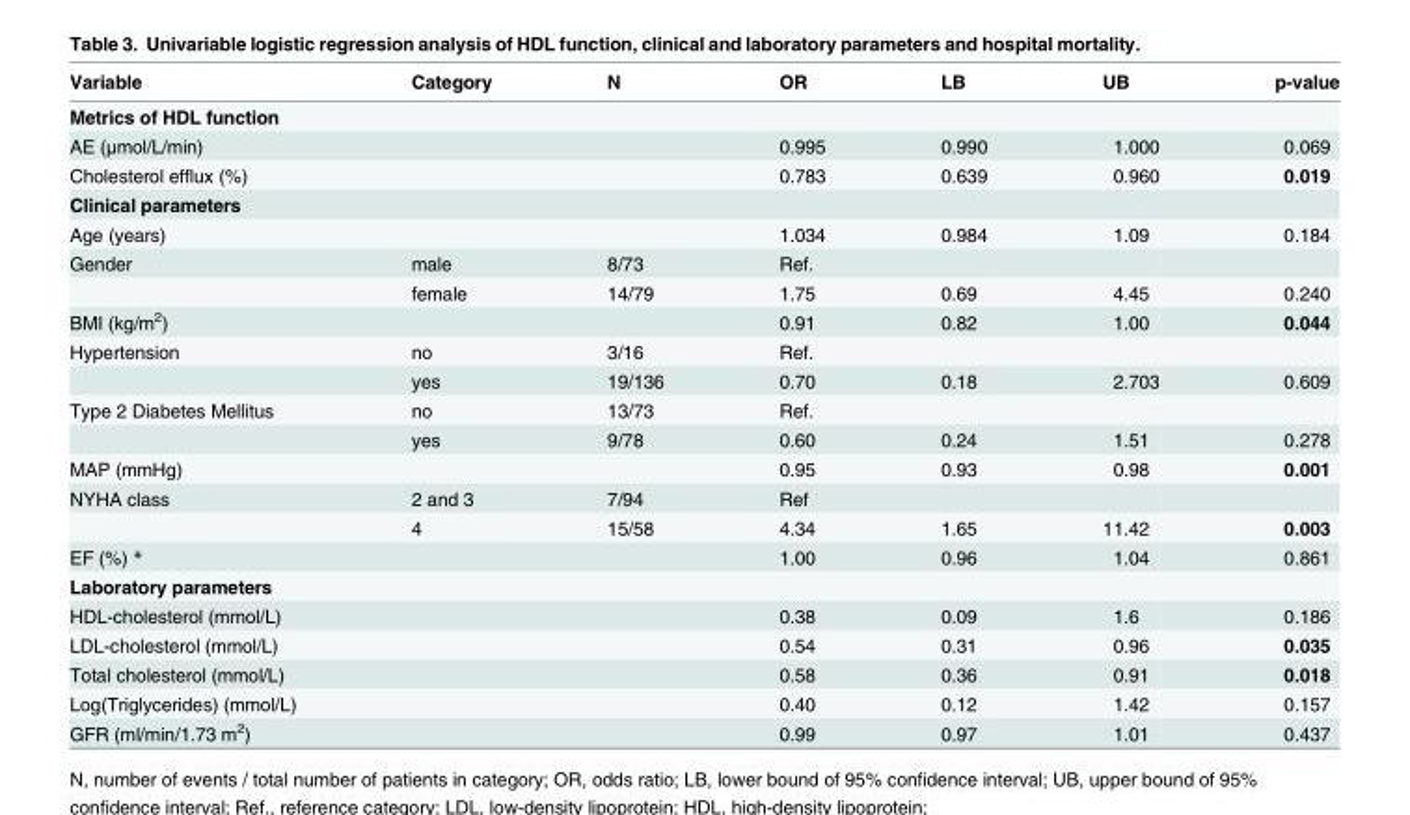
<table><thead><tr><td>Variable</td><td>Category</td><td>N</td><td>OR</td><td>LB</td><td>UB</td><td>p-value</td></tr></thead><tbody><tr><td colspan="7">Metrics of HDL function</td></tr><tr><td>AE (μmol/L/min)</td><td></td><td></td><td>0.995</td><td>0.990</td><td>1.000</td><td>0.069</td></tr><tr><td>Cholesterol efflux (%)</td><td></td><td></td><td>0.783</td><td>0.639</td><td>0.960</td><td>0.019</td></tr><tr><td colspan="7">Clinical parameters</td></tr><tr><td>Age (years)</td><td></td><td></td><td>1.034</td><td>0.984</td><td>1.09</td><td>0.184</td></tr><tr><td rowspan="2">Gender</td><td>male</td><td>8/73</td><td>Ref.</td><td></td><td></td><td></td></tr><tr><td>female</td><td>14/79</td><td>1.75</td><td>0.69</td><td>4.45</td><td>0.240</td></tr><tr><td>BMI (kg/m<sup>2</sup>)</td><td></td><td></td><td>0.91</td><td>0.82</td><td>1.00</td><td>0.044</td></tr><tr><td rowspan="2">Hypertension</td><td>no</td><td>3/16</td><td>Ref.</td><td></td><td></td><td></td></tr><tr><td>yes</td><td>19/136</td><td>0.70</td><td>0.18</td><td>2.703</td><td>0.609</td></tr><tr><td rowspan="2">Type 2 Diabetes Mellitus</td><td>no</td><td>13/73</td><td>Ref.</td><td></td><td></td><td></td></tr><tr><td>yes</td><td>9/78</td><td>0.60</td><td>0.24</td><td>1.51</td><td>0.278</td></tr><tr><td>MAP (mmHg)</td><td></td><td></td><td>0.95</td><td>0.93</td><td>0.98</td><td>0.001</td></tr><tr><td rowspan="2">NYHA class</td><td>2 and 3</td><td>7/94</td><td>Ref</td><td></td><td></td><td></td></tr><tr><td>4</td><td>15/58</td><td>4.34</td><td>1.65</td><td>11.42</td><td>0.003</td></tr><tr><td>EF (%) *</td><td></td><td></td><td>1.00</td><td>0.96</td><td>1.04</td><td>0.861</td></tr><tr><td colspan="7">Laboratory parameters</td></tr><tr><td>HDL-cholesterol (mmol/L)</td><td></td><td></td><td>0.38</td><td>0.09</td><td>1.6</td><td>0.186</td></tr><tr><td>LDL-cholesterol (mmol/L)</td><td></td><td></td><td>0.54</td><td>0.31</td><td>0.96</td><td>0.035</td></tr><tr><td>Total cholesterol (mmol/L)</td><td></td><td></td><td>0.58</td><td>0.36</td><td>0.91</td><td>0.018</td></tr><tr><td>Log(Triglycerides) (mmol/L)</td><td></td><td></td><td>0.40</td><td>0.12</td><td>1.42</td><td>0.157</td></tr><tr><td>GFR (ml/min/1.73 m<sup>2</sup>)</td><td></td><td></td><td>0.99</td><td>0.97</td><td>1.01</td><td>0.437</td></tr></tbody></table>